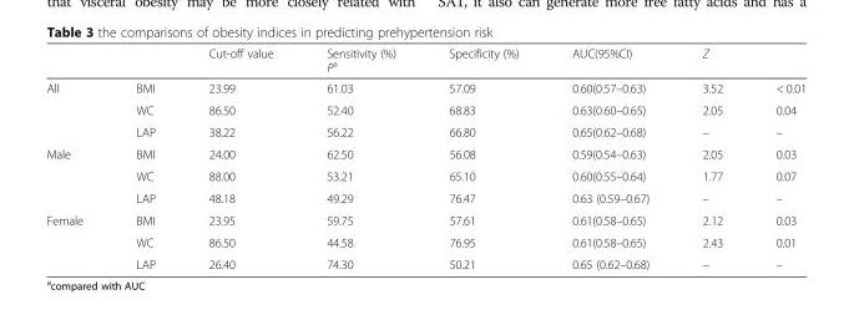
<table><thead><tr><td></td><td></td><td>Cut-off value</td><td>Sensitivity (%) P<sup>a</sup></td><td>Specificity (%)</td><td>AUC(95%CI)</td><td>Z</td><td></td></tr></thead><tbody><tr><td rowspan="3">All</td><td>BMI</td><td>23.99</td><td>61.03</td><td>57.09</td><td>0.60(0.57–0.63)</td><td>3.52</td><td>&lt; 0.01</td></tr><tr><td>WC</td><td>86.50</td><td>52.40</td><td>68.83</td><td>0.63(0.60–0.65)</td><td>2.05</td><td>0.04</td></tr><tr><td>LAP</td><td>38.22</td><td>56.22</td><td>66.80</td><td>0.65(0.62–0.68)</td><td>–</td><td>–</td></tr><tr><td rowspan="3">Male</td><td>BMI</td><td>24.00</td><td>62.50</td><td>56.08</td><td>0.59(0.54–0.63)</td><td>2.05</td><td>0.03</td></tr><tr><td>WC</td><td>88.00</td><td>53.21</td><td>65.10</td><td>0.60(0.55–0.64)</td><td>1.77</td><td>0.07</td></tr><tr><td>LAP</td><td>48.18</td><td>49.29</td><td>76.47</td><td>0.63 (0.59–0.67)</td><td>–</td><td>–</td></tr><tr><td rowspan="3">Female</td><td>BMI</td><td>23.95</td><td>59.75</td><td>57.61</td><td>0.61(0.58–0.65)</td><td>2.12</td><td>0.03</td></tr><tr><td>WC</td><td>86.50</td><td>44.58</td><td>76.95</td><td>0.61(0.58–0.65)</td><td>2.43</td><td>0.01</td></tr><tr><td>LAP</td><td>26.40</td><td>74.30</td><td>50.21</td><td>0.65 (0.62–0.68)</td><td>–</td><td>–</td></tr></tbody></table>